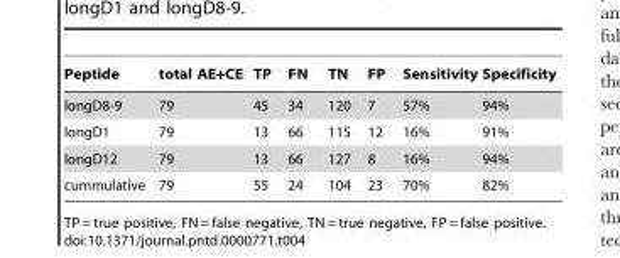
<table><thead><tr><td>Peptide</td><td>total AE+CE</td><td>TP</td><td>FN</td><td>TN</td><td>FP</td><td>Sensitivity</td><td>Specificity</td></tr></thead><tbody><tr><td>longD8-9</td><td>79</td><td>45</td><td>34</td><td>120</td><td>7</td><td>57%</td><td>94%</td></tr><tr><td>longD1</td><td>79</td><td>13</td><td>66</td><td>115</td><td>12</td><td>16%</td><td>91%</td></tr><tr><td>longD12</td><td>79</td><td>13</td><td>66</td><td>127</td><td>8</td><td>16%</td><td>94%</td></tr><tr><td>cummulative</td><td>79</td><td>55</td><td>24</td><td>104</td><td>23</td><td>70%</td><td>82%</td></tr></tbody></table>